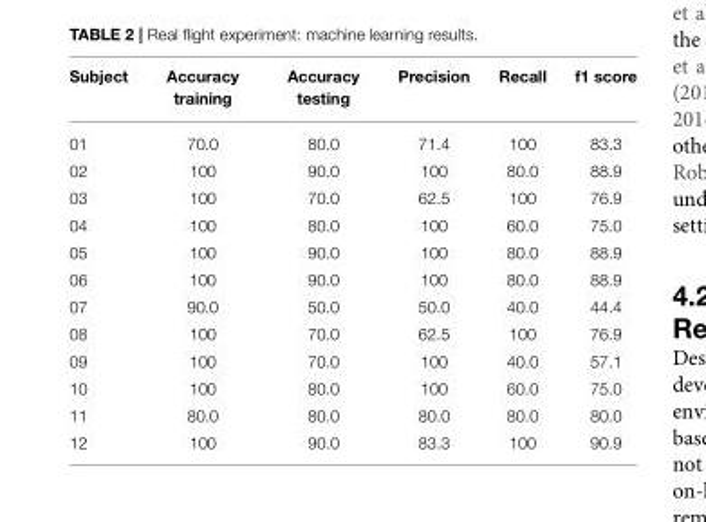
<table><thead><tr><td>Subject</td><td>Accuracy training</td><td>Accuracy testing</td><td>Precision</td><td>Recall</td><td>f1 score</td></tr></thead><tbody><tr><td>01</td><td>70.0</td><td>80.0</td><td>71.4</td><td>100</td><td>83.3</td></tr><tr><td>02</td><td>100</td><td>90.0</td><td>100</td><td>80.0</td><td>88.9</td></tr><tr><td>03</td><td>100</td><td>70.0</td><td>62.5</td><td>100</td><td>76.9</td></tr><tr><td>04</td><td>100</td><td>80.0</td><td>100</td><td>60.0</td><td>75.0</td></tr><tr><td>05</td><td>100</td><td>90.0</td><td>100</td><td>80.0</td><td>88.9</td></tr><tr><td>06</td><td>100</td><td>90.0</td><td>100</td><td>80.0</td><td>88.9</td></tr><tr><td>07</td><td>90.0</td><td>50.0</td><td>50.0</td><td>40.0</td><td>44.4</td></tr><tr><td>08</td><td>100</td><td>70.0</td><td>62.5</td><td>100</td><td>76.9</td></tr><tr><td>09</td><td>100</td><td>70.0</td><td>100</td><td>40.0</td><td>57.1</td></tr><tr><td>10</td><td>100</td><td>80.0</td><td>100</td><td>60.0</td><td>75.0</td></tr><tr><td>11</td><td>80.0</td><td>80.0</td><td>80.0</td><td>80.0</td><td>80.0</td></tr><tr><td>12</td><td>100</td><td>90.0</td><td>83.3</td><td>100</td><td>90.9</td></tr></tbody></table>